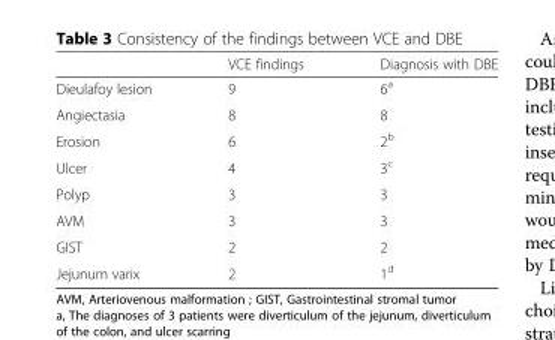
<table><thead><tr><td></td><td>VCE findings</td><td>Diagnosis with DBE</td></tr></thead><tbody><tr><td>Dieulafoy lesion</td><td>9</td><td>6<sup>a</sup></td></tr><tr><td>Angiectasia</td><td>8</td><td>8</td></tr><tr><td>Erosion</td><td>6</td><td>2<sup>b</sup></td></tr><tr><td>Ulcer</td><td>4</td><td>3<sup>c</sup></td></tr><tr><td>Polyp</td><td>3</td><td>3</td></tr><tr><td>AVM</td><td>3</td><td>3</td></tr><tr><td>GIST</td><td>2</td><td>2</td></tr><tr><td>Jejunum varix</td><td>2</td><td>1<sup>d</sup></td></tr></tbody></table>